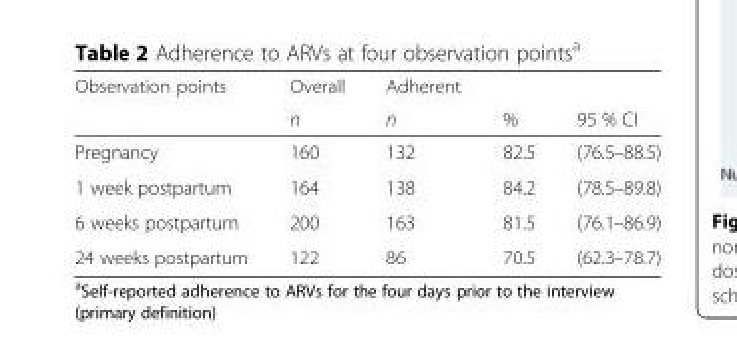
<table><thead><tr><td rowspan="2">Observation points</td><td rowspan="2">Overall n</td><td rowspan="2">Adherent n</td><td rowspan="2">%</td><td rowspan="2">95 % CI</td></tr><tr></tr></thead><tbody><tr><td>Pregnancy</td><td>160</td><td>132</td><td>82.5</td><td>(76.5–88.5)</td></tr><tr><td>1 week postpartum</td><td>164</td><td>138</td><td>84.2</td><td>(78.5–89.8)</td></tr><tr><td>6 weeks postpartum</td><td>200</td><td>163</td><td>81.5</td><td>(76.1–86.9)</td></tr><tr><td>24 weeks postpartum</td><td>122</td><td>86</td><td>70.5</td><td>(62.3–78.7)</td></tr></tbody></table>